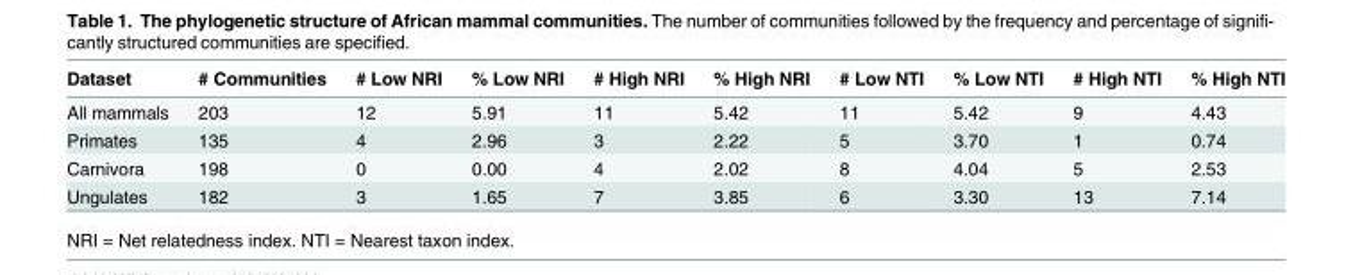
<table><thead><tr><td>Dataset</td><td># Communities</td><td># Low NRI</td><td>% Low NRI</td><td># High NRI</td><td>% High NRI</td><td># Low NTI</td><td>% Low NTI</td><td># High NTI</td><td>% High NTI</td></tr></thead><tbody><tr><td>All mammals</td><td>203</td><td>12</td><td>5.91</td><td>11</td><td>5.42</td><td>11</td><td>5.42</td><td>9</td><td>4.43</td></tr><tr><td>Primates</td><td>135</td><td>4</td><td>2.96</td><td>3</td><td>2.22</td><td>5</td><td>3.70</td><td>1</td><td>0.74</td></tr><tr><td>Carnivora</td><td>198</td><td>0</td><td>0.00</td><td>4</td><td>2.02</td><td>8</td><td>4.04</td><td>5</td><td>2.53</td></tr><tr><td>Ungulates</td><td>182</td><td>3</td><td>1.65</td><td>7</td><td>3.85</td><td>6</td><td>3.30</td><td>13</td><td>7.14</td></tr></tbody></table>